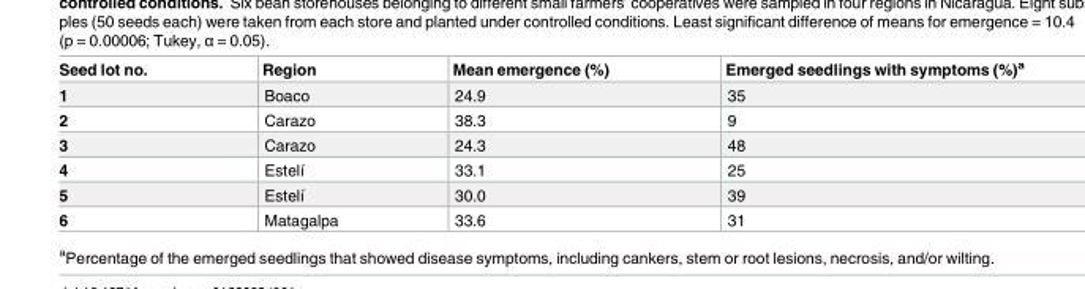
<table><thead><tr><td>Seed lot no.</td><td>Region</td><td>Mean emergence (%)</td><td>Emerged seedlings with symptoms (%)<sup>a</sup></td></tr></thead><tbody><tr><td>1</td><td>Boaco</td><td>24.9</td><td>35</td></tr><tr><td>2</td><td>Carazo</td><td>38.3</td><td>9</td></tr><tr><td>3</td><td>Carazo</td><td>24.3</td><td>48</td></tr><tr><td>4</td><td>Estelı´</td><td>33.1</td><td>25</td></tr><tr><td>5</td><td>Estelı´</td><td>30.0</td><td>39</td></tr><tr><td>6</td><td>Matagalpa</td><td>33.6</td><td>31</td></tr></tbody></table>